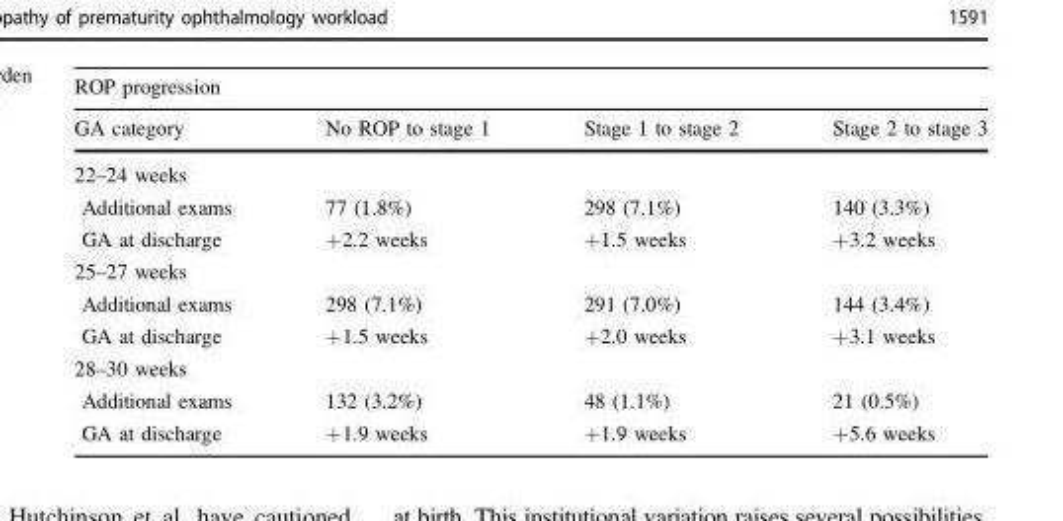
<table><thead><tr><td colspan="4">ROP progression</td></tr><tr><td>GA category</td><td>No ROP to stage 1</td><td>Stage 1 to stage 2</td><td>Stage 2 to stage 3</td></tr></thead><tbody><tr><td colspan="4">22–24 weeks</td></tr><tr><td>Additional exams</td><td>77 (1.8%)</td><td>298 (7.1%)</td><td>140 (3.3%)</td></tr><tr><td>GA at discharge</td><td>+2.2 weeks</td><td>+1.5 weeks</td><td>+3.2 weeks</td></tr><tr><td colspan="4">25–27 weeks</td></tr><tr><td>Additional exams</td><td>298 (7.1%)</td><td>291 (7.0%)</td><td>144 (3.4%)</td></tr><tr><td>GA at discharge</td><td>+1.5 weeks</td><td>+2.0 weeks</td><td>+3.1 weeks</td></tr><tr><td colspan="4">28–30 weeks</td></tr><tr><td>Additional exams</td><td>132 (3.2%)</td><td>48 (1.1%)</td><td>21 (0.5%)</td></tr><tr><td>GA at discharge</td><td>+1.9 weeks</td><td>+1.9 weeks</td><td>+5.6 weeks</td></tr></tbody></table>